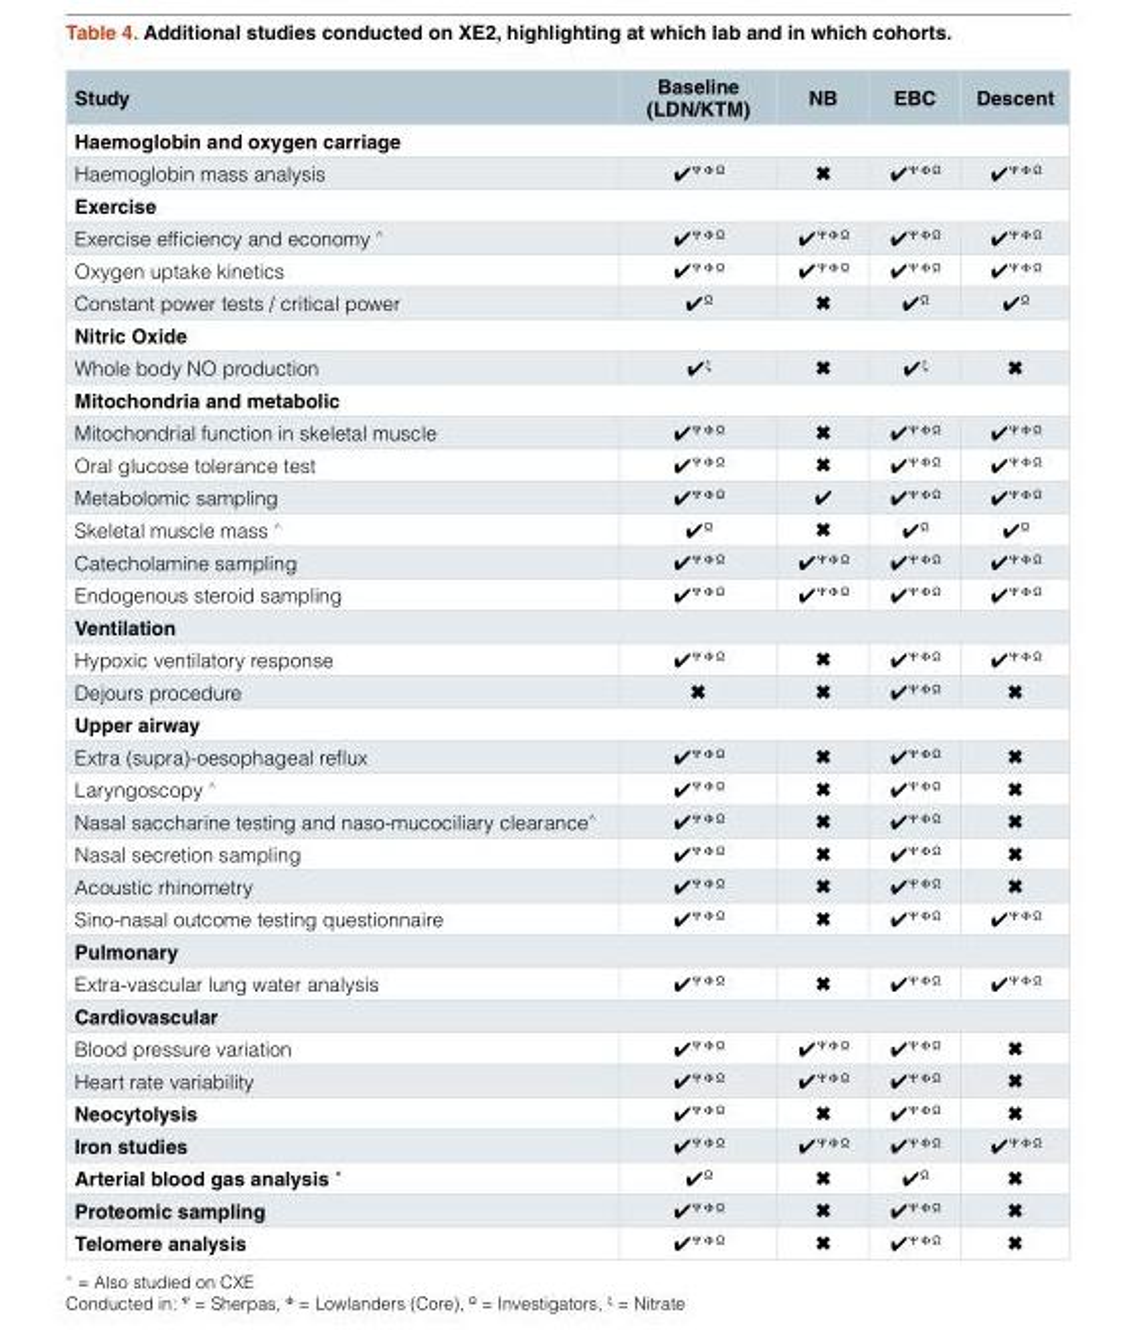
<table><thead><tr><td>Study</td><td>Baseline (LDN/KTM)</td><td>NB</td><td>EBC</td><td>Descent</td></tr></thead><tbody><tr><td colspan="5">Haemoglobin and oxygen carriage</td></tr><tr><td>Haemoglobin mass analysis</td><td>✔<sup>Ψ Φ Ω</sup></td><td>✖</td><td>✔<sup>Ψ Φ Ω</sup></td><td>✔<sup>Ψ Φ Ω</sup></td></tr><tr><td colspan="5">Exercise</td></tr><tr><td>Exercise efficiency and economy <sup>^</sup></td><td>✔<sup>Ψ Φ Ω</sup></td><td>✔<sup>Ψ Φ Ω</sup></td><td>✔<sup>Ψ Φ Ω</sup></td><td>✔<sup>Ψ Φ Ω</sup></td></tr><tr><td>Oxygen uptake kinetics</td><td>✔<sup>Ψ Φ Ω</sup></td><td>✔<sup>Ψ Φ Ω</sup></td><td>✔<sup>Ψ Φ Ω</sup></td><td>✔<sup>Ψ Φ Ω</sup></td></tr><tr><td>Constant power tests / critical power</td><td>✔<sup>Ω</sup></td><td>✖</td><td>✔<sup>Ω</sup></td><td>✔<sup>Ω</sup></td></tr><tr><td colspan="5">Nitric Oxide</td></tr><tr><td>Whole body NO production</td><td>✔<sup>ξ</sup></td><td>✖</td><td>✔<sup>ξ</sup></td><td>✖</td></tr><tr><td colspan="5">Mitochondria and metabolic</td></tr><tr><td>Mitochondrial function in skeletal muscle</td><td>✔<sup>Ψ Φ Ω</sup></td><td>✖</td><td>✔<sup>Ψ Φ Ω</sup></td><td>✔<sup>Ψ Φ Ω</sup></td></tr><tr><td>Oral glucose tolerance test</td><td>✔<sup>Ψ Φ Ω</sup></td><td>✖</td><td>✔<sup>Ψ Φ Ω</sup></td><td>✔<sup>Ψ Φ Ω</sup></td></tr><tr><td>Metabolomic sampling</td><td>✔<sup>Ψ Φ Ω</sup></td><td>✔</td><td>✔<sup>Ψ Φ Ω</sup></td><td>✔<sup>Ψ Φ Ω</sup></td></tr><tr><td>Skeletal muscle mass <sup>^</sup></td><td>✔<sup>Ω</sup></td><td>✖</td><td>✔<sup>Ω</sup></td><td>✔<sup>Ω</sup></td></tr><tr><td>Catecholamine sampling</td><td>✔<sup>Ψ Φ Ω</sup></td><td>✔<sup>Ψ Φ Ω</sup></td><td>✔<sup>Ψ Φ Ω</sup></td><td>✔<sup>Ψ Φ Ω</sup></td></tr><tr><td>Endogenous steroid sampling</td><td>✔<sup>Ψ Φ Ω</sup></td><td>✔<sup>Ψ Φ Ω</sup></td><td>✔<sup>Ψ Φ Ω</sup></td><td>✔<sup>Ψ Φ Ω</sup></td></tr><tr><td colspan="5">Ventilation</td></tr><tr><td>Hypoxic ventilatory response</td><td>✔<sup>Ψ Φ Ω</sup></td><td>✖</td><td>✔<sup>Ψ Φ Ω</sup></td><td>✔<sup>Ψ Φ Ω</sup></td></tr><tr><td>Dejours procedure</td><td>✖</td><td>✖</td><td>✔<sup>Ψ Φ Ω</sup></td><td>✖</td></tr><tr><td colspan="5">Upper airway</td></tr><tr><td>Extra (supra)-oesophageal reflux</td><td>✔<sup>Ψ Φ Ω</sup></td><td>✖</td><td>✔<sup>Ψ Φ Ω</sup></td><td>✖</td></tr><tr><td>Laryngoscopy <sup>^</sup></td><td>✔<sup>Ψ Φ Ω</sup></td><td>✖</td><td>✔<sup>Ψ Φ Ω</sup></td><td>✖</td></tr><tr><td>Nasal saccharine testing and naso-mucociliary clearance<sup>^</sup></td><td>✔<sup>Ψ Φ Ω</sup></td><td>✖</td><td>✔<sup>Ψ Φ Ω</sup></td><td>✖</td></tr><tr><td>Nasal secretion sampling</td><td>✔<sup>Ψ Φ Ω</sup></td><td>✖</td><td>✔<sup>Ψ Φ Ω</sup></td><td>✖</td></tr><tr><td>Acoustic rhinometry</td><td>✔<sup>Ψ Φ Ω</sup></td><td>✖</td><td>✔<sup>Ψ Φ Ω</sup></td><td>✖</td></tr><tr><td>Sino-nasal outcome testing questionnaire</td><td>✔<sup>Ψ Φ Ω</sup></td><td>✖</td><td>✔<sup>Ψ Φ Ω</sup></td><td>✔<sup>Ψ Φ Ω</sup></td></tr><tr><td colspan="5">Pulmonary</td></tr><tr><td>Extra-vascular lung water analysis</td><td>✔<sup>Ψ Φ Ω</sup></td><td>✖</td><td>✔<sup>Ψ Φ Ω</sup></td><td>✔<sup>Ψ Φ Ω</sup></td></tr><tr><td colspan="5">Cardiovascular</td></tr><tr><td>Blood pressure variation</td><td>✔<sup>Ψ Φ Ω</sup></td><td>✔<sup>Ψ Φ Ω</sup></td><td>✔<sup>Ψ Φ Ω</sup></td><td>✖</td></tr><tr><td>Heart rate variability</td><td>✔<sup>Ψ Φ Ω</sup></td><td>✔<sup>Ψ Φ Ω</sup></td><td>✔<sup>Ψ Φ Ω</sup></td><td>✖</td></tr><tr><td>Neocytolysis</td><td>✔<sup>Ψ Φ Ω</sup></td><td>✖</td><td>✔<sup>Ψ Φ Ω</sup></td><td>✖</td></tr><tr><td>Iron studies</td><td>✔<sup>Ψ Φ Ω</sup></td><td>✔<sup>Ψ Φ Ω</sup></td><td>✔<sup>Ψ Φ Ω</sup></td><td>✔<sup>Ψ Φ Ω</sup></td></tr><tr><td>Arterial blood gas analysis <sup>^</sup></td><td>✔<sup>Ω</sup></td><td>✖</td><td>✔<sup>Ω</sup></td><td>✖</td></tr><tr><td>Proteomic sampling</td><td>✔<sup>Ψ Φ Ω</sup></td><td>✖</td><td>✔<sup>Ψ Φ Ω</sup></td><td>✖</td></tr><tr><td>Telomere analysis</td><td>✔<sup>Ψ Φ Ω</sup></td><td>✖</td><td>✔<sup>Ψ Φ Ω</sup></td><td>✖</td></tr></tbody></table>